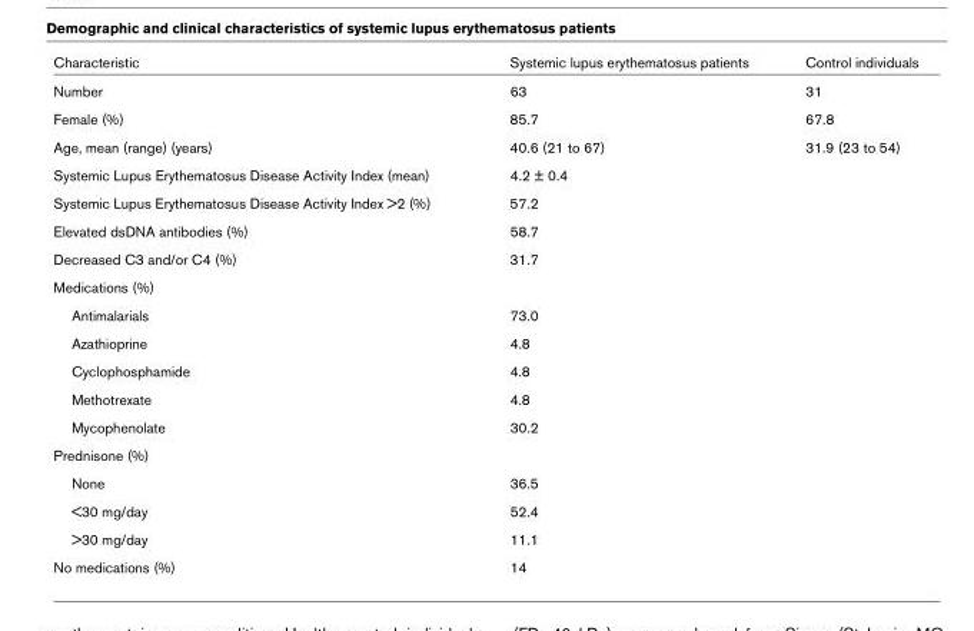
<table><thead><tr><td>Characteristic</td><td>Systemic lupus erythematosus patients</td><td>Control individuals</td></tr></thead><tbody><tr><td>Number</td><td>63</td><td>31</td></tr><tr><td>Female (%)</td><td>85.7</td><td>67.8</td></tr><tr><td>Age, mean (range) (years)</td><td>40.6 (21 to 67)</td><td>31.9 (23 to 54)</td></tr><tr><td>Systemic Lupus Erythematosus Disease Activity Index (mean)</td><td>4.2 ± 0.4</td><td></td></tr><tr><td>Systemic Lupus Erythematosus Disease Activity Index &gt;2 (%)</td><td>57.2</td><td></td></tr><tr><td>Elevated dsDNA antibodies (%)</td><td>58.7</td><td></td></tr><tr><td>Decreased C3 and/or C4 (%)</td><td>31.7</td><td></td></tr><tr><td colspan="3">Medications (%)</td></tr><tr><td>Antimalarials</td><td>73.0</td><td></td></tr><tr><td>Azathioprine</td><td>4.8</td><td></td></tr><tr><td>Cyclophosphamide</td><td>4.8</td><td></td></tr><tr><td>Methotrexate</td><td>4.8</td><td></td></tr><tr><td>Mycophenolate</td><td>30.2</td><td></td></tr><tr><td colspan="3">Prednisone (%)</td></tr><tr><td>None</td><td>36.5</td><td></td></tr><tr><td>&lt;30 mg/day</td><td>52.4</td><td></td></tr><tr><td>&gt;30 mg/day</td><td>11.1</td><td></td></tr><tr><td>No medications (%)</td><td>14</td><td></td></tr></tbody></table>